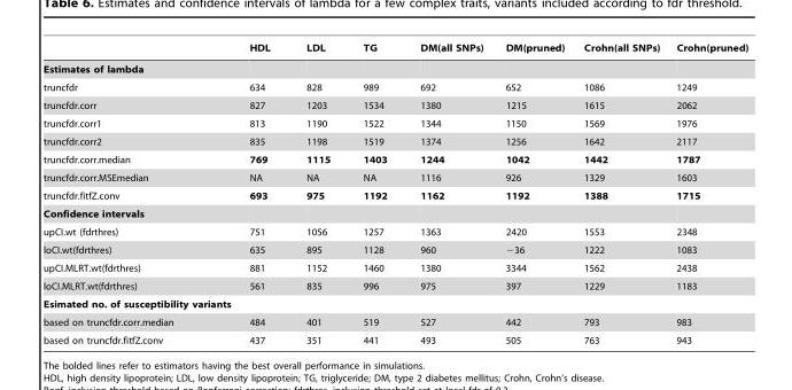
<table><thead><tr><td></td><td>HDL</td><td>LDL</td><td>TG</td><td>DM(all SNPs)</td><td>DM(pruned)</td><td>Crohn(all SNPs)</td><td>Crohn(pruned)</td></tr></thead><tbody><tr><td colspan="8">Estimates of lambda</td></tr><tr><td>truncfdr</td><td>634</td><td>828</td><td>989</td><td>692</td><td>652</td><td>1086</td><td>1249</td></tr><tr><td>truncfdr.corr</td><td>827</td><td>1203</td><td>1534</td><td>1380</td><td>1215</td><td>1615</td><td>2062</td></tr><tr><td>truncfdr.corr1</td><td>813</td><td>1190</td><td>1522</td><td>1344</td><td>1150</td><td>1569</td><td>1976</td></tr><tr><td>truncfdr.corr2</td><td>835</td><td>1198</td><td>1519</td><td>1374</td><td>1256</td><td>1642</td><td>2117</td></tr><tr><td>truncfdr.corr.median</td><td>769</td><td>1115</td><td>1403</td><td>1244</td><td>1042</td><td>1442</td><td>1787</td></tr><tr><td>truncfdr.corr.MSEmedian</td><td>NA</td><td>NA</td><td>NA</td><td>1116</td><td>926</td><td>1329</td><td>1603</td></tr><tr><td>truncfdr.fitfZ.conv</td><td>693</td><td>975</td><td>1192</td><td>1162</td><td>1192</td><td>1388</td><td>1715</td></tr><tr><td colspan="8">Confidence intervals</td></tr><tr><td>upCI.wt (fdrthres)</td><td>751</td><td>1056</td><td>1257</td><td>1363</td><td>2420</td><td>1553</td><td>2348</td></tr><tr><td>loCI.wt(fdrthres)</td><td>635</td><td>895</td><td>1128</td><td>960</td><td>−36</td><td>1222</td><td>1083</td></tr><tr><td>upCI.MLRT.wt(fdrthres)</td><td>881</td><td>1152</td><td>1460</td><td>1380</td><td>3344</td><td>1562</td><td>2438</td></tr><tr><td>loCI.MLRT.wt(fdrthres)</td><td>561</td><td>835</td><td>996</td><td>975</td><td>397</td><td>1229</td><td>1183</td></tr><tr><td colspan="8">Esimated no. of susceptibility variants</td></tr><tr><td>based on truncfdr.corr.median</td><td>484</td><td>401</td><td>519</td><td>527</td><td>442</td><td>793</td><td>983</td></tr><tr><td>based on truncfdr.fitfZ.conv</td><td>437</td><td>351</td><td>441</td><td>493</td><td>505</td><td>763</td><td>943</td></tr></tbody></table>